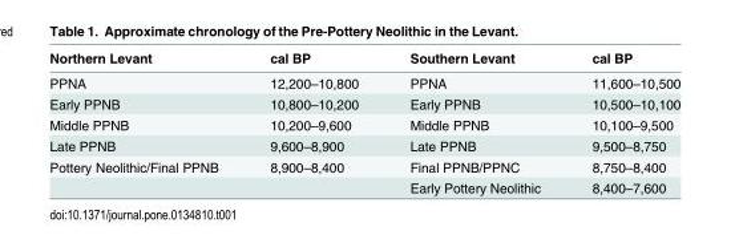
<table><thead><tr><td>Northern Levant</td><td>cal BP</td><td>Southern Levant</td><td>cal BP</td></tr></thead><tbody><tr><td>PPNA</td><td>12,200–10,800</td><td>PPNA</td><td>11,600–10,500</td></tr><tr><td>Early PPNB</td><td>10,800–10,200</td><td>Early PPNB</td><td>10,500–10,100</td></tr><tr><td>Middle PPNB</td><td>10,200–9,600</td><td>Middle PPNB</td><td>10,100–9,500</td></tr><tr><td>Late PPNB</td><td>9,600–8,900</td><td>Late PPNB</td><td>9,500–8,750</td></tr><tr><td rowspan="2">Pottery Neolithic/Final PPNB</td><td>8,900–8,400</td><td>Final PPNB/PPNC</td><td>8,750–8,400</td></tr><tr><td></td><td>Early Pottery Neolithic</td><td>8,400–7,600</td></tr></tbody></table>